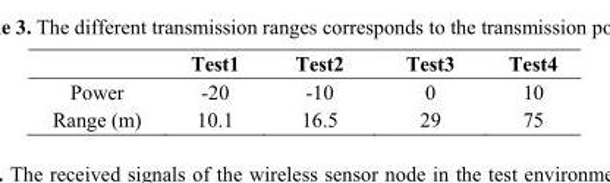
<table><thead><tr><td></td><td>Test1</td><td>Test2</td><td>Test3</td><td>Test4</td></tr></thead><tbody><tr><td>Power</td><td>-20</td><td>-10</td><td>0</td><td>10</td></tr><tr><td>Range (m)</td><td>10.1</td><td>16.5</td><td>29</td><td>75</td></tr></tbody></table>